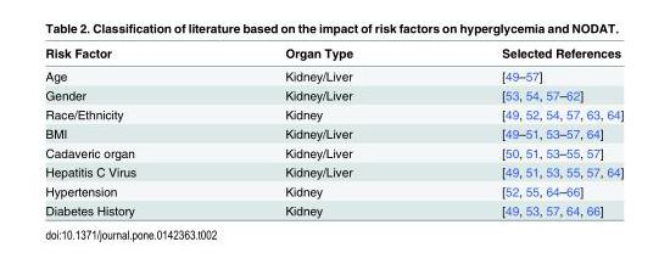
<table><thead><tr><td>Risk Factor</td><td>Organ Type</td><td>Selected References</td></tr></thead><tbody><tr><td>Age</td><td>Kidney/Liver</td><td>[49–57]</td></tr><tr><td>Gender</td><td>Kidney/Liver</td><td>[53, 54, 57–62]</td></tr><tr><td>Race/Ethnicity</td><td>Kidney</td><td>[49, 52, 54, 57, 63, 64]</td></tr><tr><td>BMI</td><td>Kidney/Liver</td><td>[49–51, 53–57, 64]</td></tr><tr><td>Cadaveric organ</td><td>Kidney/Liver</td><td>[50, 51, 53–55, 57]</td></tr><tr><td>Hepatitis C Virus</td><td>Kidney/Liver</td><td>[49, 51, 53, 55, 57, 64]</td></tr><tr><td>Hypertension</td><td>Kidney</td><td>[52, 55, 64–66]</td></tr><tr><td>Diabetes History</td><td>Kidney</td><td>[49, 53, 57, 64, 66]</td></tr></tbody></table>